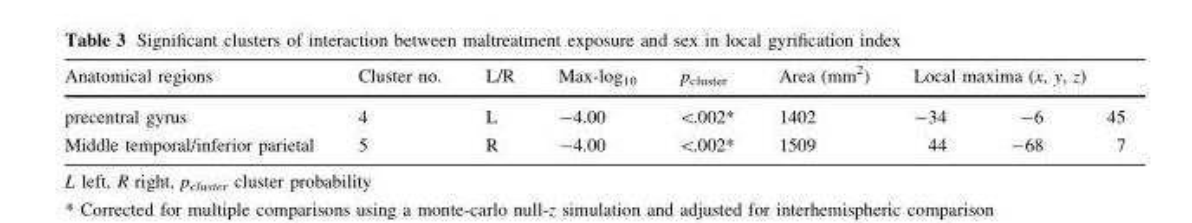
<table><thead><tr><td rowspan="2">Anatomical regions precentral gyrus</td><td rowspan="2">Cluster no. 4</td><td rowspan="2">L/R L</td><td rowspan="2">Max-log<sub>10</sub> -4.00</td><td rowspan="2">p<sub>cluster</sub> &lt;.002*</td><td rowspan="2">Area (mm<sup>2</sup>) 1402</td><td colspan="3">Local maxima (x, y, z)</td></tr><tr><td>-34</td><td>-6</td><td>45</td></tr></thead><tbody><tr><td>Middle temporal/inferior parietal</td><td>5</td><td>R</td><td>-4.00</td><td>&lt;.002*</td><td>1509</td><td>44</td><td>-68</td><td>7</td></tr></tbody></table>